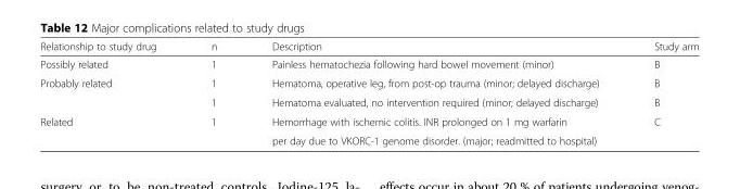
<table><thead><tr><td>Relationship to study drug</td><td>n</td><td>Description</td><td>Study arm</td></tr></thead><tbody><tr><td>Possibly related</td><td>1</td><td>Painless hematochezia following hard bowel movement (minor)</td><td>B</td></tr><tr><td rowspan="2">Probably related</td><td>1</td><td>Hematoma, operative leg, from post-op trauma (minor; delayed discharge)</td><td>B</td></tr><tr><td>1</td><td>Hematoma evaluated, no intervention required (minor; delayed discharge)</td><td>B</td></tr><tr><td rowspan="2">Related</td><td>1</td><td>Hemorrhage with ischemic colitis. INR prolonged on 1 mg warfarin</td><td>C</td></tr><tr><td></td><td>per day due to VKORC-1 genome disorder. (major; readmitted to hospital)</td><td></td></tr></tbody></table>